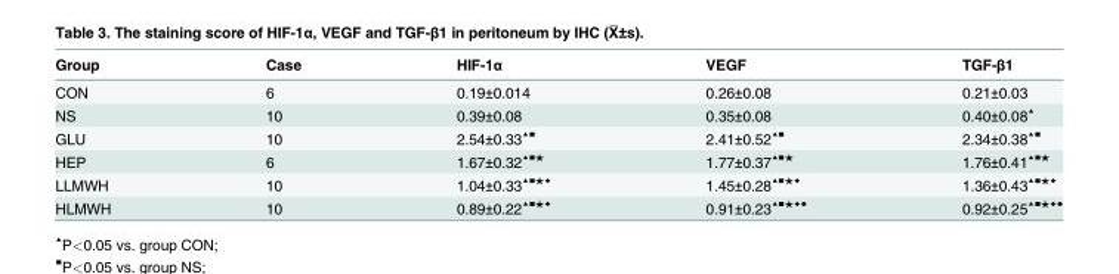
<table><thead><tr><td>Group</td><td>Case</td><td>HIF-1α</td><td>VEGF</td><td>TGF-β1</td></tr></thead><tbody><tr><td>CON</td><td>6</td><td>0.19±0.014</td><td>0.26±0.08</td><td>0.21±0.03</td></tr><tr><td>NS</td><td>10</td><td>0.39±0.08</td><td>0.35±0.08</td><td>0.40±0.08<sup>▲</sup></td></tr><tr><td>GLU</td><td>10</td><td>2.54±0.33<sup>▲■</sup></td><td>2.41±0.52<sup>▲■</sup></td><td>2.34±0.38<sup>▲■</sup></td></tr><tr><td>HEP</td><td>6</td><td>1.67±0.32<sup>▲■★</sup></td><td>1.77±0.37<sup>▲■★</sup></td><td>1.76±0.41<sup>▲■★</sup></td></tr><tr><td>LLMWH</td><td>10</td><td>1.04±0.33<sup>▲■★◆</sup></td><td>1.45±0.28<sup>▲■★◆</sup></td><td>1.36±0.43<sup>▲■★◆</sup></td></tr><tr><td>HLMWH</td><td>10</td><td>0.89±0.22<sup>▲■★◆</sup></td><td>0.91±0.23<sup>▲■★◆●</sup></td><td>0.92±0.25<sup>▲■★◆●</sup></td></tr></tbody></table>